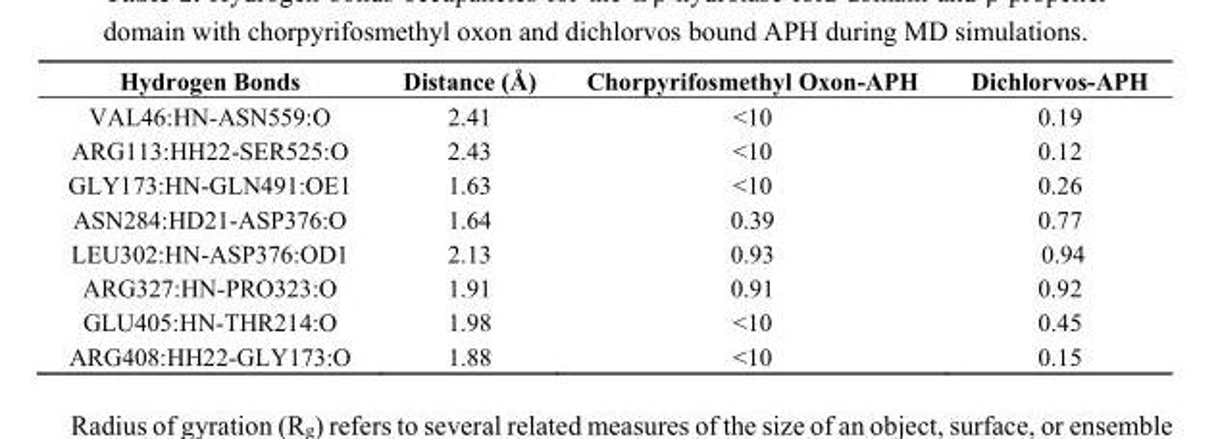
<table><thead><tr><td>Hydrogen Bonds</td><td>Distance (Å)</td><td>Chorpyrifosmethyl Oxon-APH</td><td>Dichlorvos-APH</td></tr></thead><tbody><tr><td>VAL46:HN-ASN559:O</td><td>2.41</td><td>&lt;10</td><td>0.19</td></tr><tr><td>ARG113:HH22-SER525:O</td><td>2.43</td><td>&lt;10</td><td>0.12</td></tr><tr><td>GLY173:HN-GLN491:OE1</td><td>1.63</td><td>&lt;10</td><td>0.26</td></tr><tr><td>ASN284:HD21-ASP376:O</td><td>1.64</td><td>0.39</td><td>0.77</td></tr><tr><td>LEU302:HN-ASP376:OD1</td><td>2.13</td><td>0.93</td><td>0.94</td></tr><tr><td>ARG327:HN-PRO323:O</td><td>1.91</td><td>0.91</td><td>0.92</td></tr><tr><td>GLU405:HN-THR214:O</td><td>1.98</td><td>&lt;10</td><td>0.45</td></tr><tr><td>ARG408:HH22-GLY173:O</td><td>1.88</td><td>&lt;10</td><td>0.15</td></tr></tbody></table>